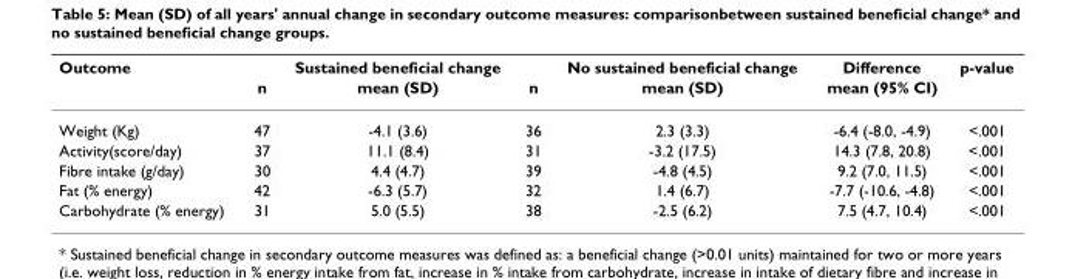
<table><thead><tr><td rowspan="2">Outcome</td><td rowspan="2">n</td><td rowspan="2">Sustained beneficial change mean (SD)</td><td rowspan="2">n</td><td rowspan="2">No sustained beneficial change mean (SD)</td><td rowspan="2">Difference mean (95% CI)</td><td rowspan="2">p-value</td></tr><tr></tr></thead><tbody><tr><td>Weight (Kg)</td><td>47</td><td>-4.1 (3.6)</td><td>36</td><td>2.3 (3.3)</td><td>-6.4 (-8.0, -4.9)</td><td>&lt;.001</td></tr><tr><td>Activity(score/day)</td><td>37</td><td>11.1 (8.4)</td><td>31</td><td>-3.2 (17.5)</td><td>14.3 (7.8, 20.8)</td><td>&lt;.001</td></tr><tr><td>Fibre intake (g/day)</td><td>30</td><td>4.4 (4.7)</td><td>39</td><td>-4.8 (4.5)</td><td>9.2 (7.0, 11.5)</td><td>&lt;.001</td></tr><tr><td>Fat (% energy)</td><td>42</td><td>-6.3 (5.7)</td><td>32</td><td>1.4 (6.7)</td><td>-7.7 (-10.6, -4.8)</td><td>&lt;.001</td></tr><tr><td>Carbohydrate (% energy)</td><td>31</td><td>5.0 (5.5)</td><td>38</td><td>-2.5 (6.2)</td><td>7.5 (4.7, 10.4)</td><td>&lt;.001</td></tr></tbody></table>